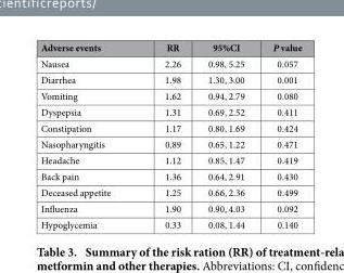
<table><thead><tr><td>Adverse events</td><td>RR</td><td>95%CI</td><td>P value</td></tr></thead><tbody><tr><td>Nausea</td><td>2.26</td><td>0.98, 5.25</td><td>0.057</td></tr><tr><td>Diarrhea</td><td>1.98</td><td>1.30, 3.00</td><td>0.001</td></tr><tr><td>Vomiting</td><td>1.62</td><td>0.94, 2.79</td><td>0.080</td></tr><tr><td>Dyspepsia</td><td>1.31</td><td>0.69, 2.52</td><td>0.411</td></tr><tr><td>Constipation</td><td>1.17</td><td>0.80, 1.69</td><td>0.424</td></tr><tr><td>Nasopharyngitis</td><td>0.89</td><td>0.65, 1.22</td><td>0.471</td></tr><tr><td>Headache</td><td>1.12</td><td>0.85, 1.47</td><td>0.419</td></tr><tr><td>Back pain</td><td>1.36</td><td>0.64, 2.91</td><td>0.430</td></tr><tr><td>Deceased appetite</td><td>1.25</td><td>0.66, 2.36</td><td>0.499</td></tr><tr><td>Influenza</td><td>1.90</td><td>0.90, 4.03</td><td>0.092</td></tr><tr><td>Hypoglycemia</td><td>0.33</td><td>0.08, 1.44</td><td>0.140</td></tr></tbody></table>